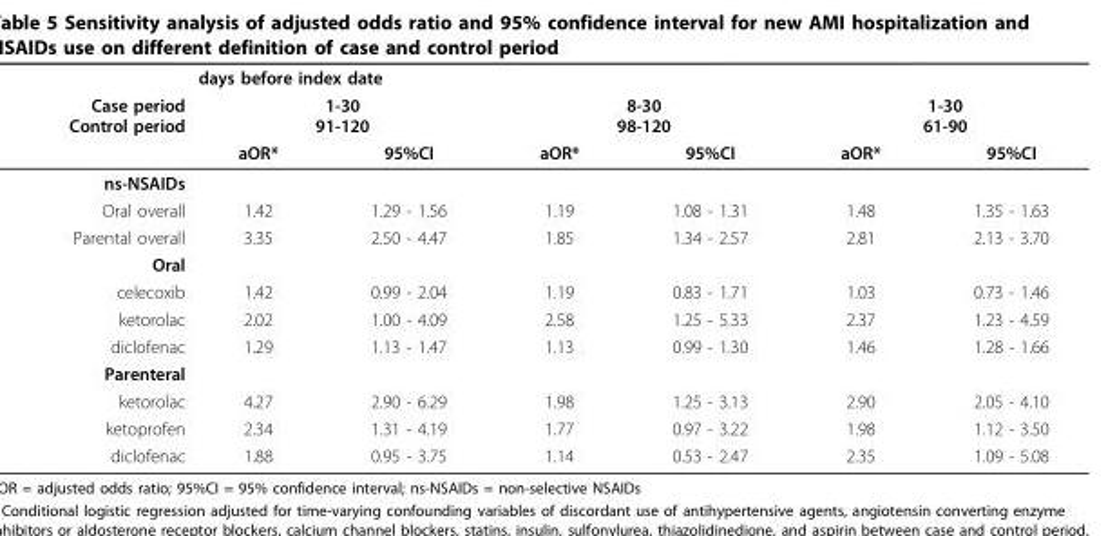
<table><thead><tr><td rowspan="3">Case period Control period</td><td colspan="6">days before index date</td></tr><tr><td colspan="2">1-30 91-120</td><td colspan="2">8-30 98-120</td><td colspan="2">1-30 61-90</td></tr><tr><td>aOR*</td><td>95%CI</td><td>aOR*</td><td>95%CI</td><td>aOR*</td><td>95%CI</td></tr></thead><tbody><tr><td colspan="7">ns-NSAIDs</td></tr><tr><td>Oral overall</td><td>1.42</td><td>1.29 - 1.56</td><td>1.19</td><td>1.08 - 1.31</td><td>1.48</td><td>1.35 - 1.63</td></tr><tr><td>Parental overall</td><td>3.35</td><td>2.50 - 4.47</td><td>1.85</td><td>1.34 - 2.57</td><td>2.81</td><td>2.13 - 3.70</td></tr><tr><td colspan="7">Oral</td></tr><tr><td>celecoxib</td><td>1.42</td><td>0.99 - 2.04</td><td>1.19</td><td>0.83 - 1.71</td><td>1.03</td><td>0.73 - 1.46</td></tr><tr><td>ketorolac</td><td>2.02</td><td>1.00 - 4.09</td><td>2.58</td><td>1.25 - 5.33</td><td>2.37</td><td>1.23 - 4.59</td></tr><tr><td>diclofenac</td><td>1.29</td><td>1.13 - 1.47</td><td>1.13</td><td>0.99 - 1.30</td><td>1.46</td><td>1.28 - 1.66</td></tr><tr><td colspan="7">Parenteral</td></tr><tr><td>ketorolac</td><td>4.27</td><td>2.90 - 6.29</td><td>1.98</td><td>1.25 - 3.13</td><td>2.90</td><td>2.05 - 4.10</td></tr><tr><td>ketoprofen</td><td>2.34</td><td>1.31 - 4.19</td><td>1.77</td><td>0.97 - 3.22</td><td>1.98</td><td>1.12 - 3.50</td></tr><tr><td>diclofenac</td><td>1.88</td><td>0.95 - 3.75</td><td>1.14</td><td>0.53 - 2.47</td><td>2.35</td><td>1.09 - 5.08</td></tr></tbody></table>